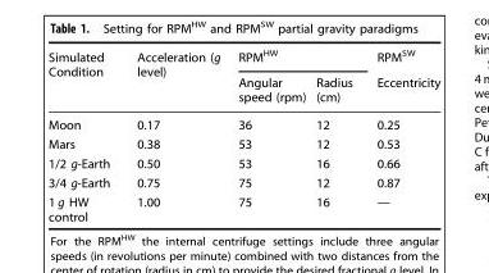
<table><thead><tr><td rowspan="2">Simulated Condition</td><td rowspan="2">Acceleration (g level)</td><td colspan="2">RPM<sup>HW</sup></td><td rowspan="2">RPM<sup>SW</sup> Eccentricity</td></tr><tr><td>Angular speed (rpm)</td><td>Radius (cm)</td></tr></thead><tbody><tr><td>Moon</td><td>0.17</td><td>36</td><td>12</td><td>0.25</td></tr><tr><td>Mars</td><td>0.38</td><td>53</td><td>12</td><td>0.53</td></tr><tr><td>1/2 g-Earth</td><td>0.50</td><td>53</td><td>16</td><td>0.66</td></tr><tr><td>3/4 g-Earth</td><td>0.75</td><td>75</td><td>12</td><td>0.87</td></tr><tr><td>1 g HW control</td><td>1.00</td><td>75</td><td>16</td><td>—</td></tr></tbody></table>